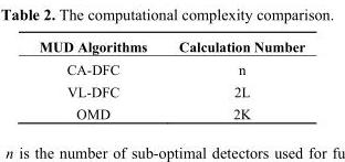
<table><thead><tr><td>MUD Algorithms</td><td>Calculation Number</td></tr></thead><tbody><tr><td>CA-DFC</td><td>n</td></tr><tr><td>VL-DFC</td><td>2L</td></tr><tr><td>OMD</td><td>2K</td></tr></tbody></table>